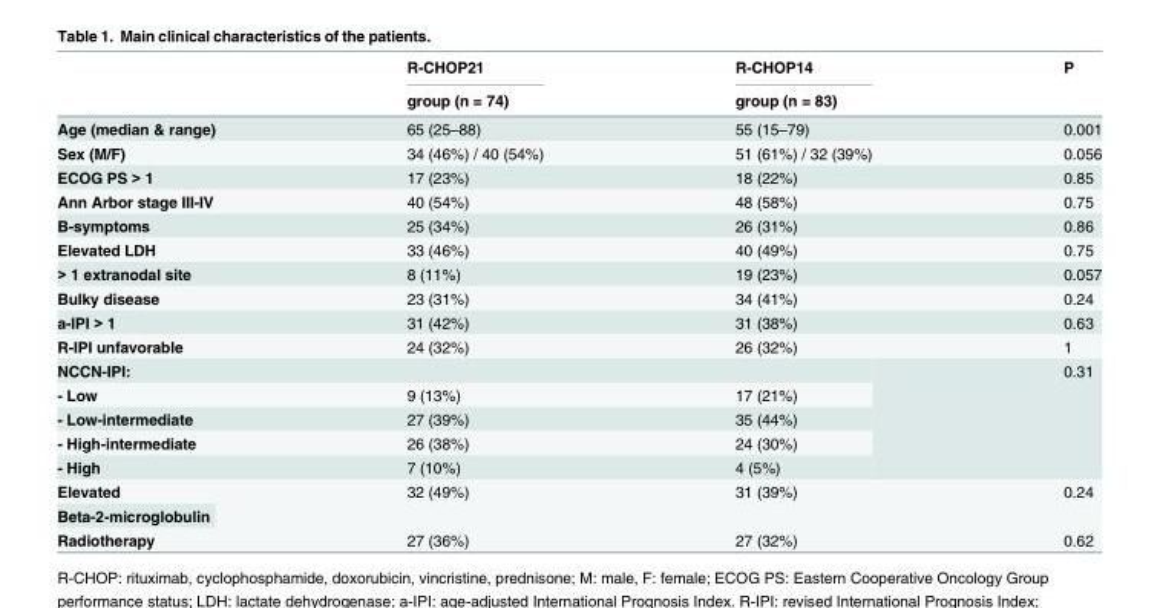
<table><thead><tr><td rowspan="2"></td><td rowspan="2">R-CHOP21 group (n = 74)</td><td rowspan="2">R-CHOP14 group (n = 83)</td><td rowspan="2">P</td></tr><tr></tr></thead><tbody><tr><td>Age (median &amp; range)</td><td>65 (25–88)</td><td>55 (15–79)</td><td>0.001</td></tr><tr><td>Sex (M/F)</td><td>34 (46%) / 40 (54%)</td><td>51 (61%) / 32 (39%)</td><td>0.056</td></tr><tr><td>ECOG PS &gt; 1</td><td>17 (23%)</td><td>18 (22%)</td><td>0.85</td></tr><tr><td>Ann Arbor stage III-IV</td><td>40 (54%)</td><td>48 (58%)</td><td>0.75</td></tr><tr><td>B-symptoms</td><td>25 (34%)</td><td>26 (31%)</td><td>0.86</td></tr><tr><td>Elevated LDH</td><td>33 (46%)</td><td>40 (49%)</td><td>0.75</td></tr><tr><td>&gt; 1 extranodal site</td><td>8 (11%)</td><td>19 (23%)</td><td>0.057</td></tr><tr><td>Bulky disease</td><td>23 (31%)</td><td>34 (41%)</td><td>0.24</td></tr><tr><td>a-IPI &gt; 1</td><td>31 (42%)</td><td>31 (38%)</td><td>0.63</td></tr><tr><td>R-IPI unfavorable</td><td>24 (32%)</td><td>26 (32%)</td><td>1</td></tr><tr><td colspan="3">NCCN-IPI:</td><td rowspan="5">0.31</td></tr><tr><td>- Low</td><td>9 (13%)</td><td>17 (21%)</td></tr><tr><td>- Low-intermediate</td><td>27 (39%)</td><td>35 (44%)</td></tr><tr><td>- High-intermediate</td><td>26 (38%)</td><td>24 (30%)</td></tr><tr><td>- High</td><td>7 (10%)</td><td>4 (5%)</td></tr><tr><td>Elevated</td><td rowspan="2">32 (49%)</td><td rowspan="2">31 (39%)</td><td rowspan="2">0.24</td></tr><tr><td>Beta-2-microglobulin</td></tr><tr><td>Radiotherapy</td><td>27 (36%)</td><td>27 (32%)</td><td>0.62</td></tr></tbody></table>